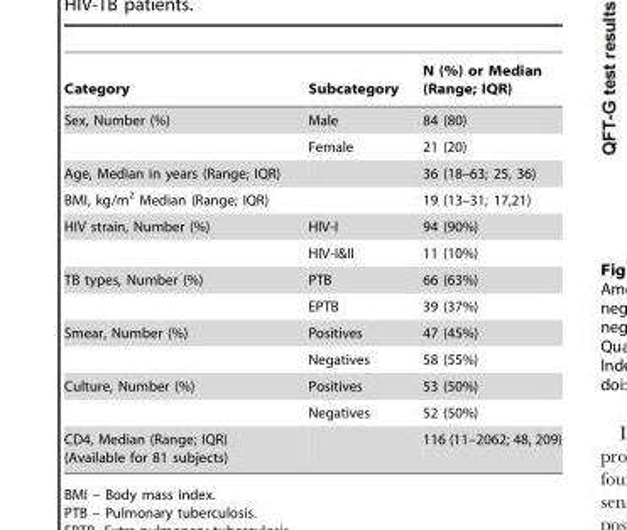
<table><thead><tr><td>Category</td><td>Subcategory</td><td>N (%) or Median (Range; IQR)</td></tr></thead><tbody><tr><td rowspan="2">Sex, Number (%)</td><td>Male</td><td>84 (80)</td></tr><tr><td>Female</td><td>21 (20)</td></tr><tr><td>Age, Median in years (Range; IQR)</td><td></td><td>36 (18–63; 25, 36)</td></tr><tr><td>BMI, kg/m<sup>2</sup> Median (Range; IQR)</td><td></td><td>19 (13–31; 17,21)</td></tr><tr><td rowspan="2">HIV strain, Number (%)</td><td>HIV-I</td><td>94 (90%)</td></tr><tr><td>HIV-I&amp;II</td><td>11 (10%)</td></tr><tr><td rowspan="2">TB types, Number (%)</td><td>PTB</td><td>66 (63%)</td></tr><tr><td>EPTB</td><td>39 (37%)</td></tr><tr><td rowspan="2">Smear, Number (%)</td><td>Positives</td><td>47 (45%)</td></tr><tr><td>Negatives</td><td>58 (55%)</td></tr><tr><td rowspan="2">Culture, Number (%)</td><td>Positives</td><td>53 (50%)</td></tr><tr><td>Negatives</td><td>52 (50%)</td></tr><tr><td>CD4, Median (Range; IQR) (Available for 81 subjects)</td><td></td><td>116 (11–2062; 48, 209)</td></tr></tbody></table>